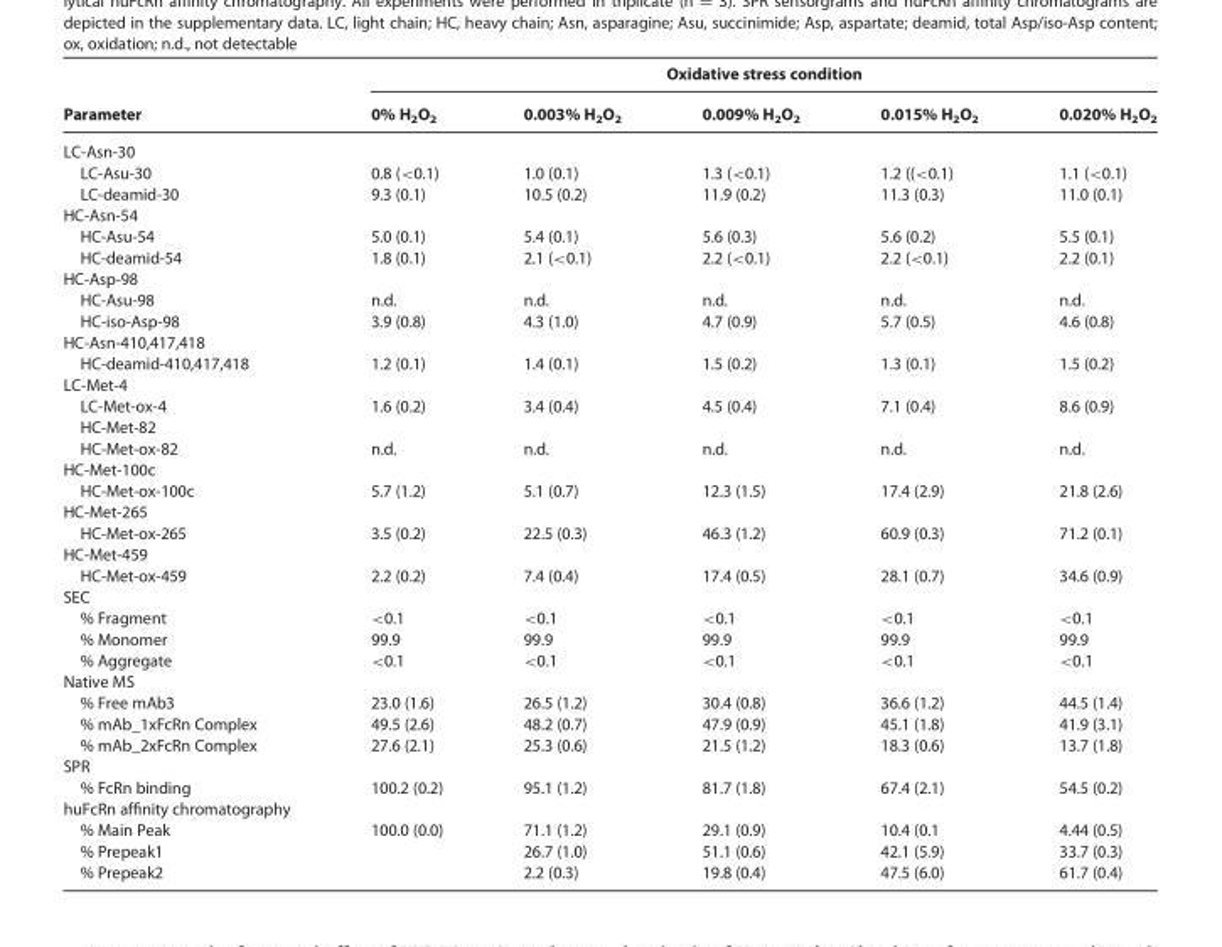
<table><thead><tr><td rowspan="2">Parameter</td><td colspan="5">Oxidative stress condition</td></tr><tr><td>0% H<sub>2</sub>O<sub>2</sub></td><td>0.003% H<sub>2</sub>O<sub>2</sub></td><td>0.009% H<sub>2</sub>O<sub>2</sub></td><td>0.015% H<sub>2</sub>O<sub>2</sub></td><td>0.020% H<sub>2</sub>O<sub>2</sub></td></tr></thead><tbody><tr><td colspan="6">LC-Asn-30</td></tr><tr><td>LC-Asu-30</td><td>0.8 (&lt;0.1)</td><td>1.0 (0.1)</td><td>1.3 (&lt;0.1)</td><td>1.2 ((&lt;0.1)</td><td>1.1 (&lt;0.1)</td></tr><tr><td>LC-deamid-30</td><td>9.3 (0.1)</td><td>10.5 (0.2)</td><td>11.9 (0.2)</td><td>11.3 (0.3)</td><td>11.0 (0.1)</td></tr><tr><td colspan="6">HC-Asn-54</td></tr><tr><td>HC-Asu-54</td><td>5.0 (0.1)</td><td>5.4 (0.1)</td><td>5.6 (0.3)</td><td>5.6 (0.2)</td><td>5.5 (0.1)</td></tr><tr><td>HC-deamid-54</td><td>1.8 (0.1)</td><td>2.1 (&lt;0.1)</td><td>2.2 (&lt;0.1)</td><td>2.2 (&lt;0.1)</td><td>2.2 (0.1)</td></tr><tr><td colspan="6">HC-Asp-98</td></tr><tr><td>HC-Asu-98</td><td>n.d.</td><td>n.d.</td><td>n.d.</td><td>n.d.</td><td>n.d.</td></tr><tr><td>HC-iso-Asp-98</td><td>3.9 (0.8)</td><td>4.3 (1.0)</td><td>4.7 (0.9)</td><td>5.7 (0.5)</td><td>4.6 (0.8)</td></tr><tr><td colspan="6">HC-Asn-410,417,418</td></tr><tr><td>HC-deamid-410,417,418</td><td>1.2 (0.1)</td><td>1.4 (0.1)</td><td>1.5 (0.2)</td><td>1.3 (0.1)</td><td>1.5 (0.2)</td></tr><tr><td colspan="6">LC-Met-4</td></tr><tr><td>LC-Met-ox-4</td><td>1.6 (0.2)</td><td>3.4 (0.4)</td><td>4.5 (0.4)</td><td>7.1 (0.4)</td><td>8.6 (0.9)</td></tr><tr><td colspan="6">HC-Met-82</td></tr><tr><td>HC-Met-ox-82</td><td>n.d.</td><td>n.d.</td><td>n.d.</td><td>n.d.</td><td>n.d.</td></tr><tr><td colspan="6">HC-Met-100c</td></tr><tr><td>HC-Met-ox-100c</td><td>5.7 (1.2)</td><td>5.1 (0.7)</td><td>12.3 (1.5)</td><td>17.4 (2.9)</td><td>21.8 (2.6)</td></tr><tr><td colspan="6">HC-Met-265</td></tr><tr><td>HC-Met-ox-265</td><td>3.5 (0.2)</td><td>22.5 (0.3)</td><td>46.3 (1.2)</td><td>60.9 (0.3)</td><td>71.2 (0.1)</td></tr><tr><td colspan="6">HC-Met-459</td></tr><tr><td>HC-Met-ox-459</td><td>2.2 (0.2)</td><td>7.4 (0.4)</td><td>17.4 (0.5)</td><td>28.1 (0.7)</td><td>34.6 (0.9)</td></tr><tr><td colspan="6">SEC</td></tr><tr><td>% Fragment</td><td>&lt;0.1</td><td>&lt;0.1</td><td>&lt;0.1</td><td>&lt;0.1</td><td>&lt;0.1</td></tr><tr><td>% Monomer</td><td>99.9</td><td>99.9</td><td>99.9</td><td>99.9</td><td>99.9</td></tr><tr><td>% Aggregate</td><td>&lt;0.1</td><td>&lt;0.1</td><td>&lt;0.1</td><td>&lt;0.1</td><td>&lt;0.1</td></tr><tr><td colspan="6">Native MS</td></tr><tr><td>% Free mAb3</td><td>23.0 (1.6)</td><td>26.5 (1.2)</td><td>30.4 (0.8)</td><td>36.6 (1.2)</td><td>44.5 (1.4)</td></tr><tr><td>% mAb_1xFcRn Complex</td><td>49.5 (2.6)</td><td>48.2 (0.7)</td><td>47.9 (0.9)</td><td>45.1 (1.8)</td><td>41.9 (3.1)</td></tr><tr><td>% mAb_2xFcRn Complex</td><td>27.6 (2.1)</td><td>25.3 (0.6)</td><td>21.5 (1.2)</td><td>18.3 (0.6)</td><td>13.7 (1.8)</td></tr><tr><td colspan="6">SPR</td></tr><tr><td>% FcRn binding</td><td>100.2 (0.2)</td><td>95.1 (1.2)</td><td>81.7 (1.8)</td><td>67.4 (2.1)</td><td>54.5 (0.2)</td></tr><tr><td colspan="6">huFcRn affinity chromatography</td></tr><tr><td>% Main Peak</td><td>100.0 (0.0)</td><td>71.1 (1.2)</td><td>29.1 (0.9)</td><td>10.4 (0.1</td><td>4.44 (0.5)</td></tr><tr><td>% Prepeak1</td><td></td><td>26.7 (1.0)</td><td>51.1 (0.6)</td><td>42.1 (5.9)</td><td>33.7 (0.3)</td></tr><tr><td>% Prepeak2</td><td></td><td>2.2 (0.3)</td><td>19.8 (0.4)</td><td>47.5 (6.0)</td><td>61.7 (0.4)</td></tr></tbody></table>